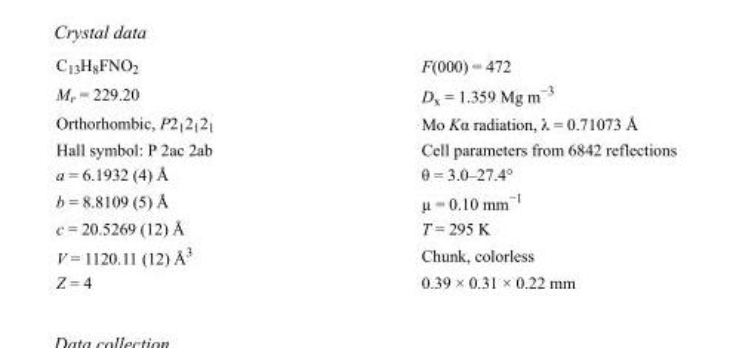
<table><tbody><tr><td>C<sub>13</sub>H<sub>8</sub>FNO<sub>2</sub></td><td>F(000) = 472</td></tr><tr><td>M<sub>r</sub> = 229.20</td><td>D<sub>x</sub> = 1.359 Mg m<sup>−3</sup></td></tr><tr><td>Orthorhombic, P2<sub>1</sub>2<sub>1</sub>2<sub>1</sub></td><td>Mo Kα radiation, λ = 0.71073 Å</td></tr><tr><td>Hall symbol: P 2ac 2ab</td><td>Cell parameters from 6842 reflections</td></tr><tr><td>a = 6.1932 (4) Å</td><td>θ = 3.0–27.4°</td></tr><tr><td>b = 8.8109 (5) Å</td><td>µ = 0.10 mm<sup>−1</sup></td></tr><tr><td>c = 20.5269 (12) Å</td><td>T = 295 K</td></tr><tr><td>V = 1120.11 (12) Å<sup>3</sup></td><td>Chunk, colorless</td></tr><tr><td>Z = 4</td><td>0.39 × 0.31 × 0.22 mm</td></tr></tbody></table>